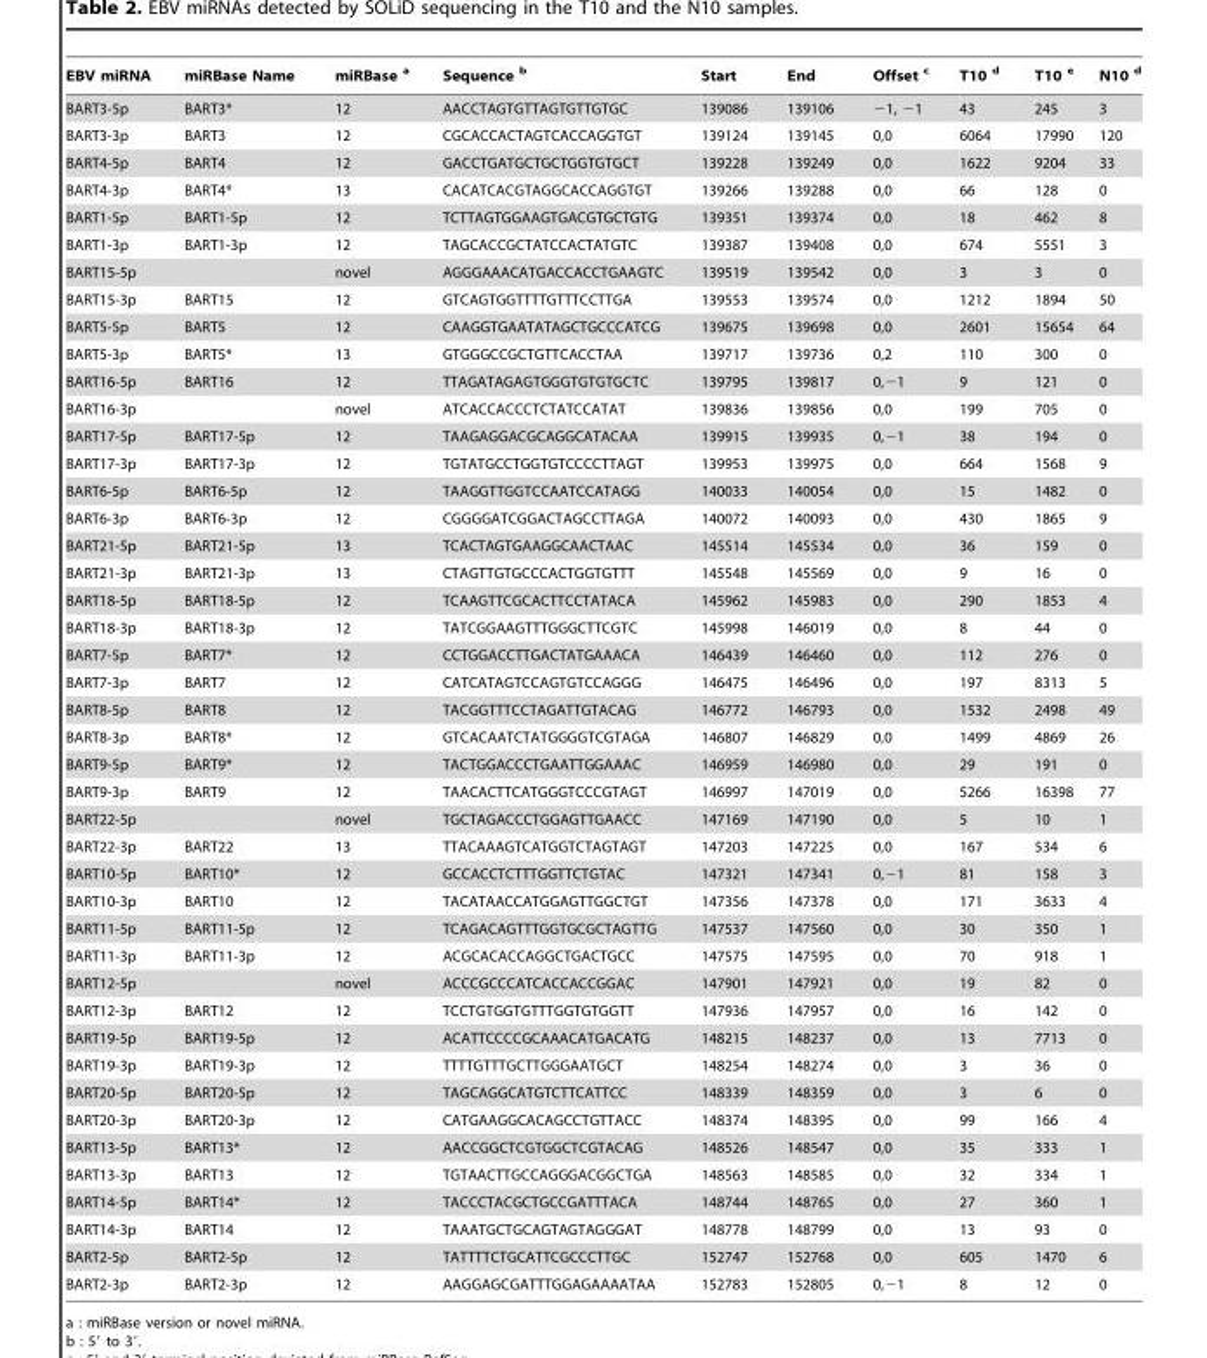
<table><thead><tr><td>EBV miRNA</td><td>miRBase Name</td><td>miRBase <sup>a</sup></td><td>Sequence <sup>b</sup></td><td>Start</td><td>End</td><td>Offset <sup>c</sup></td><td>T10 <sup>d</sup></td><td>T10 <sup>e</sup></td><td>N10 <sup>d</sup></td></tr></thead><tbody><tr><td>BART3-5p</td><td>BART3*</td><td>12</td><td>AACCTAGTGTTAGTGTTGTGC</td><td>139086</td><td>139106</td><td>−1, −1</td><td>43</td><td>245</td><td>3</td></tr><tr><td>BART3-3p</td><td>BART3</td><td>12</td><td>CGCACCACTAGTCACCAGGTGT</td><td>139124</td><td>139145</td><td>0,0</td><td>6064</td><td>17990</td><td>120</td></tr><tr><td>BART4-5p</td><td>BART4</td><td>12</td><td>GACCTGATGCTGCTGGTGTGCT</td><td>139228</td><td>139249</td><td>0,0</td><td>1622</td><td>9204</td><td>33</td></tr><tr><td>BART4-3p</td><td>BART4*</td><td>13</td><td>CACATCACGTAGGCACCAGGTGT</td><td>139266</td><td>139288</td><td>0,0</td><td>66</td><td>128</td><td>0</td></tr><tr><td>BART1-5p</td><td>BART1-5p</td><td>12</td><td>TCTTAGTGGAAGTGACGTGCTGTG</td><td>139351</td><td>139374</td><td>0,0</td><td>18</td><td>462</td><td>8</td></tr><tr><td>BART1-3p</td><td>BART1-3p</td><td>12</td><td>TAGCACCGCTATCCACTATGTC</td><td>139387</td><td>139408</td><td>0,0</td><td>674</td><td>5551</td><td>3</td></tr><tr><td>BART15-5p</td><td></td><td>novel</td><td>AGGGAAACATGACCACCTGAAGTC</td><td>139519</td><td>139542</td><td>0,0</td><td>3</td><td>3</td><td>0</td></tr><tr><td>BART15-3p</td><td>BART15</td><td>12</td><td>GTCAGTGGTTTTGTTTCCTTGA</td><td>139553</td><td>139574</td><td>0,0</td><td>1212</td><td>1894</td><td>50</td></tr><tr><td>BART5-5p</td><td>BART5</td><td>12</td><td>CAAGGTGAATATAGCTGCCCATCG</td><td>139675</td><td>139698</td><td>0,0</td><td>2601</td><td>15654</td><td>64</td></tr><tr><td>BART5-3p</td><td>BART5*</td><td>13</td><td>GTGGGCCGCTGTTCACCTAA</td><td>139717</td><td>139736</td><td>0,2</td><td>110</td><td>300</td><td>0</td></tr><tr><td>BART16-5p</td><td>BART16</td><td>12</td><td>TTAGATAGAGTGGGTGTGTGCTC</td><td>139795</td><td>139817</td><td>0,−1</td><td>9</td><td>121</td><td>0</td></tr><tr><td>BART16-3p</td><td></td><td>novel</td><td>ATCACCACCCTCTATCCATAT</td><td>139836</td><td>139856</td><td>0,0</td><td>199</td><td>705</td><td>0</td></tr><tr><td>BART17-5p</td><td>BART17-5p</td><td>12</td><td>TAAGAGGACGCAGGCATACAA</td><td>139915</td><td>139935</td><td>0,−1</td><td>38</td><td>194</td><td>0</td></tr><tr><td>BART17-3p</td><td>BART17-3p</td><td>12</td><td>TGTATGCCTGGTGTCCCCTTAGT</td><td>139953</td><td>139975</td><td>0,0</td><td>664</td><td>1568</td><td>9</td></tr><tr><td>BART6-5p</td><td>BART6-5p</td><td>12</td><td>TAAGGTTGGTCCAATCCATAGG</td><td>140033</td><td>140054</td><td>0,0</td><td>15</td><td>1482</td><td>0</td></tr><tr><td>BART6-3p</td><td>BART6-3p</td><td>12</td><td>CGGGGATCGGACTAGCCTTAGA</td><td>140072</td><td>140093</td><td>0,0</td><td>430</td><td>1865</td><td>9</td></tr><tr><td>BART21-5p</td><td>BART21-5p</td><td>13</td><td>TCACTAGTGAAGGCAACTAAC</td><td>145514</td><td>145534</td><td>0,0</td><td>36</td><td>159</td><td>0</td></tr><tr><td>BART21-3p</td><td>BART21-3p</td><td>13</td><td>CTAGTTGTGCCCACTGGTGTTT</td><td>145548</td><td>145569</td><td>0,0</td><td>9</td><td>16</td><td>0</td></tr><tr><td>BART18-5p</td><td>BART18-5p</td><td>12</td><td>TCAAGTTCGCACTTCCTATACA</td><td>145962</td><td>145983</td><td>0,0</td><td>290</td><td>1853</td><td>4</td></tr><tr><td>BART18-3p</td><td>BART18-3p</td><td>12</td><td>TATCGGAAGTTTGGGCTTCGTC</td><td>145998</td><td>146019</td><td>0,0</td><td>8</td><td>44</td><td>0</td></tr><tr><td>BART7-5p</td><td>BART7*</td><td>12</td><td>CCTGGACCTTGACTATGAAACA</td><td>146439</td><td>146460</td><td>0,0</td><td>112</td><td>276</td><td>0</td></tr><tr><td>BART7-3p</td><td>BART7</td><td>12</td><td>CATCATAGTCCAGTGTCCAGGG</td><td>146475</td><td>146496</td><td>0,0</td><td>197</td><td>8313</td><td>5</td></tr><tr><td>BART8-5p</td><td>BART8</td><td>12</td><td>TACGGTTTCCTAGATTGTACAG</td><td>146772</td><td>146793</td><td>0,0</td><td>1532</td><td>2498</td><td>49</td></tr><tr><td>BART8-3p</td><td>BART8*</td><td>12</td><td>GTCACAATCTATGGGGTCGTAGA</td><td>146807</td><td>146829</td><td>0,0</td><td>1499</td><td>4869</td><td>26</td></tr><tr><td>BART9-5p</td><td>BART9*</td><td>12</td><td>TACTGGACCCTGAATTGGAAAC</td><td>146959</td><td>146980</td><td>0,0</td><td>29</td><td>191</td><td>0</td></tr><tr><td>BART9-3p</td><td>BART9</td><td>12</td><td>TAACACTTCATGGGTCCCGTAGT</td><td>146997</td><td>147019</td><td>0,0</td><td>5266</td><td>16398</td><td>77</td></tr><tr><td>BART22-5p</td><td></td><td>novel</td><td>TGCTAGACCCTGGAGTTGAACC</td><td>147169</td><td>147190</td><td>0,0</td><td>5</td><td>10</td><td>1</td></tr><tr><td>BART22-3p</td><td>BART22</td><td>13</td><td>TTACAAAGTCATGGTCTAGTAGT</td><td>147203</td><td>147225</td><td>0,0</td><td>167</td><td>534</td><td>6</td></tr><tr><td>BART10-5p</td><td>BART10*</td><td>12</td><td>GCCACCTCTTTGGTTCTGTAC</td><td>147321</td><td>147341</td><td>0,−1</td><td>81</td><td>158</td><td>3</td></tr><tr><td>BART10-3p</td><td>BART10</td><td>12</td><td>TACATAACCATGGAGTTGGCTGT</td><td>147356</td><td>147378</td><td>0,0</td><td>171</td><td>3633</td><td>4</td></tr><tr><td>BART11-5p</td><td>BART11-5p</td><td>12</td><td>TCAGACAGTTTGGTGCGCTAGTTG</td><td>147537</td><td>147560</td><td>0,0</td><td>30</td><td>350</td><td>1</td></tr><tr><td>BART11-3p</td><td>BART11-3p</td><td>12</td><td>ACGCACACCAGGCTGACTGCC</td><td>147575</td><td>147595</td><td>0,0</td><td>70</td><td>918</td><td>1</td></tr><tr><td>BART12-5p</td><td></td><td>novel</td><td>ACCCGCCCATCACCACCGGAC</td><td>147901</td><td>147921</td><td>0,0</td><td>19</td><td>82</td><td>0</td></tr><tr><td>BART12-3p</td><td>BART12</td><td>12</td><td>TCCTGTGGTGTTTGGTGTGGTT</td><td>147936</td><td>147957</td><td>0,0</td><td>16</td><td>142</td><td>0</td></tr><tr><td>BART19-5p</td><td>BART19-5p</td><td>12</td><td>ACATTCCCCGCAAACATGACATG</td><td>148215</td><td>148237</td><td>0,0</td><td>13</td><td>7713</td><td>0</td></tr><tr><td>BART19-3p</td><td>BART19-3p</td><td>12</td><td>TTTTGTTTGCTTGGGAATGCT</td><td>148254</td><td>148274</td><td>0,0</td><td>3</td><td>36</td><td>0</td></tr><tr><td>BART20-5p</td><td>BART20-5p</td><td>12</td><td>TAGCAGGCATGTCTTCATTCC</td><td>148339</td><td>148359</td><td>0,0</td><td>3</td><td>6</td><td>0</td></tr><tr><td>BART20-3p</td><td>BART20-3p</td><td>12</td><td>CATGAAGGCACAGCCTGTTACC</td><td>148374</td><td>148395</td><td>0,0</td><td>99</td><td>166</td><td>4</td></tr><tr><td>BART13-5p</td><td>BART13*</td><td>12</td><td>AACCGGCTCGTGGCTCGTACAG</td><td>148526</td><td>148547</td><td>0,0</td><td>35</td><td>333</td><td>1</td></tr><tr><td>BART13-3p</td><td>BART13</td><td>12</td><td>TGTAACTTGCCAGGGACGGCTGA</td><td>148563</td><td>148585</td><td>0,0</td><td>32</td><td>334</td><td>1</td></tr><tr><td>BART14-5p</td><td>BART14*</td><td>12</td><td>TACCCTACGCTGCCGATTTACA</td><td>148744</td><td>148765</td><td>0,0</td><td>27</td><td>360</td><td>1</td></tr><tr><td>BART14-3p</td><td>BART14</td><td>12</td><td>TAAATGCTGCAGTAGTAGGGAT</td><td>148778</td><td>148799</td><td>0,0</td><td>13</td><td>93</td><td>0</td></tr><tr><td>BART2-5p</td><td>BART2-5p</td><td>12</td><td>TATTTTCTGCATTCGCCCTTGC</td><td>152747</td><td>152768</td><td>0,0</td><td>605</td><td>1470</td><td>6</td></tr><tr><td>BART2-3p</td><td>BART2-3p</td><td>12</td><td>AAGGAGCGATTTGGAGAAAATAA</td><td>152783</td><td>152805</td><td>0,−1</td><td>8</td><td>12</td><td>0</td></tr></tbody></table>